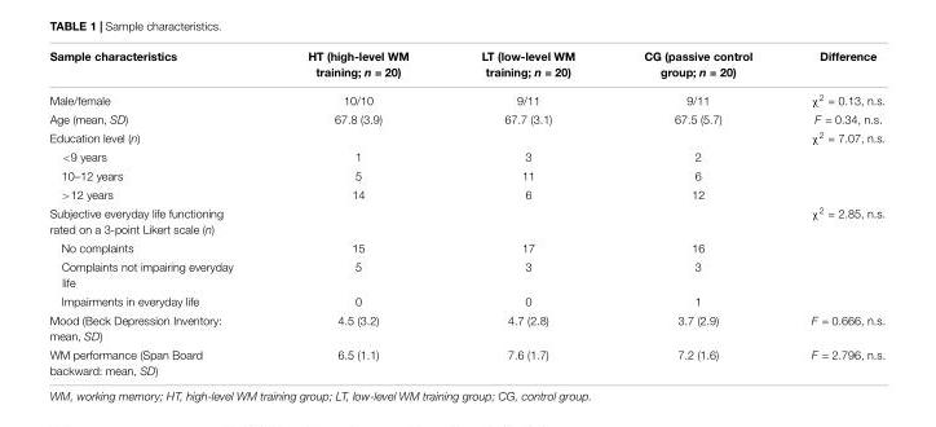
<table><thead><tr><td>Sample characteristics</td><td>HT (high-level WM training; n = 20)</td><td>LT (low-level WM training; n = 20)</td><td>CG (passive control group; n = 20)</td><td>Difference</td></tr></thead><tbody><tr><td>Male/female</td><td>10/10</td><td>9/11</td><td>9/11</td><td>χ<sup>2</sup> = 0.13, n.s.</td></tr><tr><td>Age (mean, SD)</td><td>67.8 (3.9)</td><td>67.7 (3.1)</td><td>67.5 (5.7)</td><td>F = 0.34, n.s.</td></tr><tr><td>Education level (n)</td><td></td><td></td><td></td><td>χ<sup>2</sup> = 7.07, n.s.</td></tr><tr><td>&lt;9 years</td><td>1</td><td>3</td><td>2</td><td></td></tr><tr><td>10–12 years</td><td>5</td><td>11</td><td>6</td><td></td></tr><tr><td>&gt;12 years</td><td>14</td><td>6</td><td>12</td><td></td></tr><tr><td>Subjective everyday life functioning rated on a 3-point Likert scale (n)</td><td></td><td></td><td></td><td>χ<sup>2</sup> = 2.85, n.s.</td></tr><tr><td>No complaints</td><td>15</td><td>17</td><td>16</td><td></td></tr><tr><td>Complaints not impairing everyday life</td><td>5</td><td>3</td><td>3</td><td></td></tr><tr><td>Impairments in everyday life</td><td>0</td><td>0</td><td>1</td><td></td></tr><tr><td>Mood (Beck Depression Inventory: mean, SD)</td><td>4.5 (3.2)</td><td>4.7 (2.8)</td><td>3.7 (2.9)</td><td>F = 0.666, n.s.</td></tr><tr><td>WM performance (Span Board backward: mean, SD)</td><td>6.5 (1.1)</td><td>7.6 (1.7)</td><td>7.2 (1.6)</td><td>F = 2.796, n.s.</td></tr></tbody></table>